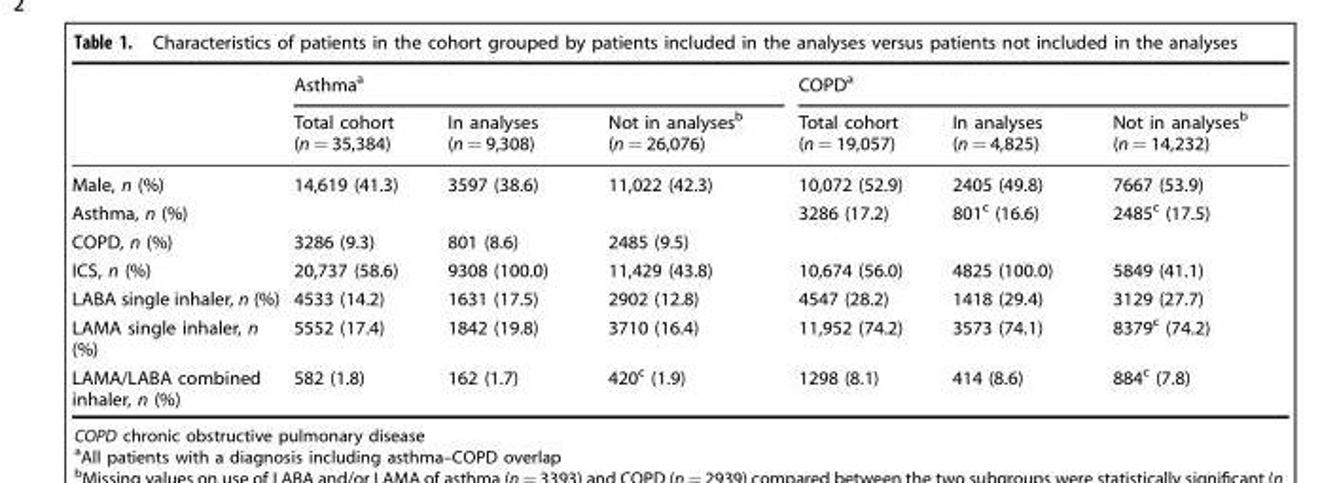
<table><thead><tr><td rowspan="2"></td><td colspan="3">Asthma<sup>a</sup></td><td colspan="3">COPD<sup>a</sup></td></tr><tr><td>Total cohort (n = 35,384)</td><td>In analyses (n = 9,308)</td><td>Not in analyses<sup>b</sup> (n = 26,076)</td><td>Total cohort (n = 19,057)</td><td>In analyses (n = 4,825)</td><td>Not in analyses<sup>b</sup> (n = 14,232)</td></tr></thead><tbody><tr><td>Male, n (%)</td><td>14,619 (41.3)</td><td>3597 (38.6)</td><td>11,022 (42.3)</td><td>10,072 (52.9)</td><td>2405 (49.8)</td><td>7667 (53.9)</td></tr><tr><td>Asthma, n (%)</td><td></td><td></td><td></td><td>3286 (17.2)</td><td>801<sup>c</sup> (16.6)</td><td>2485<sup>c</sup> (17.5)</td></tr><tr><td>COPD, n (%)</td><td>3286 (9.3)</td><td>801 (8.6)</td><td>2485 (9.5)</td><td></td><td></td><td></td></tr><tr><td>ICS, n (%)</td><td>20,737 (58.6)</td><td>9308 (100.0)</td><td>11,429 (43.8)</td><td>10,674 (56.0)</td><td>4825 (100.0)</td><td>5849 (41.1)</td></tr><tr><td>LABA single inhaler, n (%)</td><td>4533 (14.2)</td><td>1631 (17.5)</td><td>2902 (12.8)</td><td>4547 (28.2)</td><td>1418 (29.4)</td><td>3129 (27.7)</td></tr><tr><td>LAMA single inhaler, n (%)</td><td>5552 (17.4)</td><td>1842 (19.8)</td><td>3710 (16.4)</td><td>11,952 (74.2)</td><td>3573 (74.1)</td><td>8379<sup>c</sup> (74.2)</td></tr><tr><td>LAMA/LABA combined inhaler, n (%)</td><td>582 (1.8)</td><td>162 (1.7)</td><td>420<sup>c</sup> (1.9)</td><td>1298 (8.1)</td><td>414 (8.6)</td><td>884<sup>c</sup> (7.8)</td></tr></tbody></table>